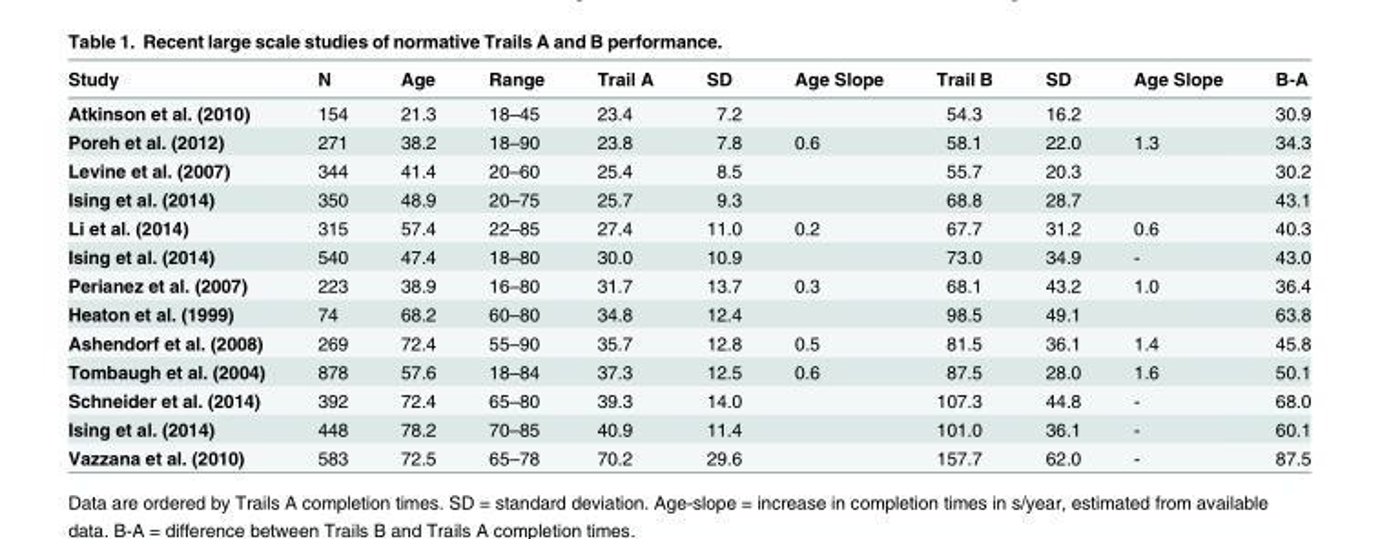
<table><thead><tr><td>Study</td><td>N</td><td>Age</td><td>Range</td><td>Trail A</td><td>SD</td><td>Age Slope</td><td>Trail B</td><td>SD</td><td>Age Slope</td><td>B-A</td></tr></thead><tbody><tr><td>Atkinson et al. (2010)</td><td>154</td><td>21.3</td><td>18–45</td><td>23.4</td><td>7.2</td><td></td><td>54.3</td><td>16.2</td><td></td><td>30.9</td></tr><tr><td>Poreh et al. (2012)</td><td>271</td><td>38.2</td><td>18–90</td><td>23.8</td><td>7.8</td><td>0.6</td><td>58.1</td><td>22.0</td><td>1.3</td><td>34.3</td></tr><tr><td>Levine et al. (2007)</td><td>344</td><td>41.4</td><td>20–60</td><td>25.4</td><td>8.5</td><td></td><td>55.7</td><td>20.3</td><td></td><td>30.2</td></tr><tr><td>Ising et al. (2014)</td><td>350</td><td>48.9</td><td>20–75</td><td>25.7</td><td>9.3</td><td></td><td>68.8</td><td>28.7</td><td></td><td>43.1</td></tr><tr><td>Li et al. (2014)</td><td>315</td><td>57.4</td><td>22–85</td><td>27.4</td><td>11.0</td><td>0.2</td><td>67.7</td><td>31.2</td><td>0.6</td><td>40.3</td></tr><tr><td>Ising et al. (2014)</td><td>540</td><td>47.4</td><td>18–80</td><td>30.0</td><td>10.9</td><td></td><td>73.0</td><td>34.9</td><td>-</td><td>43.0</td></tr><tr><td>Perianez et al. (2007)</td><td>223</td><td>38.9</td><td>16–80</td><td>31.7</td><td>13.7</td><td>0.3</td><td>68.1</td><td>43.2</td><td>1.0</td><td>36.4</td></tr><tr><td>Heaton et al. (1999)</td><td>74</td><td>68.2</td><td>60–80</td><td>34.8</td><td>12.4</td><td></td><td>98.5</td><td>49.1</td><td></td><td>63.8</td></tr><tr><td>Ashendorf et al. (2008)</td><td>269</td><td>72.4</td><td>55–90</td><td>35.7</td><td>12.8</td><td>0.5</td><td>81.5</td><td>36.1</td><td>1.4</td><td>45.8</td></tr><tr><td>Tombaugh et al. (2004)</td><td>878</td><td>57.6</td><td>18–84</td><td>37.3</td><td>12.5</td><td>0.6</td><td>87.5</td><td>28.0</td><td>1.6</td><td>50.1</td></tr><tr><td>Schneider et al. (2014)</td><td>392</td><td>72.4</td><td>65–80</td><td>39.3</td><td>14.0</td><td></td><td>107.3</td><td>44.8</td><td>-</td><td>68.0</td></tr><tr><td>Ising et al. (2014)</td><td>448</td><td>78.2</td><td>70–85</td><td>40.9</td><td>11.4</td><td></td><td>101.0</td><td>36.1</td><td>-</td><td>60.1</td></tr><tr><td>Vazzana et al. (2010)</td><td>583</td><td>72.5</td><td>65–78</td><td>70.2</td><td>29.6</td><td></td><td>157.7</td><td>62.0</td><td>-</td><td>87.5</td></tr></tbody></table>